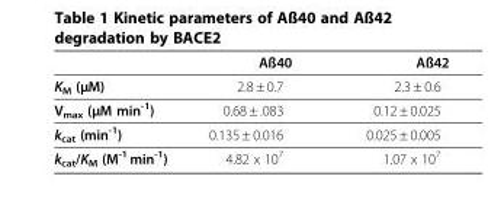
<table><thead><tr><td></td><td>Aß40</td><td>Aß42</td></tr></thead><tbody><tr><td>K<sub>M</sub> (μM)</td><td>2.8 ± 0.7</td><td>2.3 ± 0.6</td></tr><tr><td>V<sub>max</sub> (μM min<sup>-1</sup>)</td><td>0.68 ± .083</td><td>0.12 ± 0.025</td></tr><tr><td>k<sub>cat</sub> (min<sup>-1</sup>)</td><td>0.135 ± 0.016</td><td>0.025 ± 0.005</td></tr><tr><td>k<sub>cat</sub>/K<sub>M</sub> (M<sup>-1</sup> min<sup>-1</sup>)</td><td>4.82 x 10<sup>7</sup></td><td>1.07 x 10<sup>7</sup></td></tr></tbody></table>